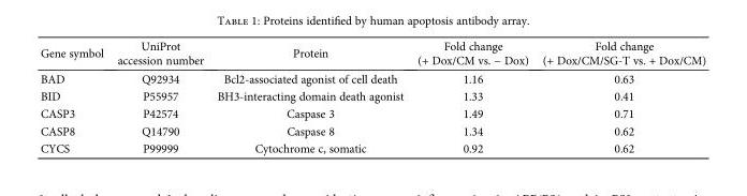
<table><thead><tr><td>Gene symbol</td><td>UniProt accession number</td><td>Protein</td><td>Fold change (+ Dox/CM vs. − Dox)</td><td>Fold change (+ Dox/CM/SG-T vs. + Dox/CM)</td></tr></thead><tbody><tr><td>BAD</td><td>Q92934</td><td>Bcl2-associated agonist of cell death</td><td>1.16</td><td>0.63</td></tr><tr><td>BID</td><td>P55957</td><td>BH3-interacting domain death agonist</td><td>1.33</td><td>0.41</td></tr><tr><td>CASP3</td><td>P42574</td><td>Caspase 3</td><td>1.49</td><td>0.71</td></tr><tr><td>CASP8</td><td>Q14790</td><td>Caspase 8</td><td>1.34</td><td>0.62</td></tr><tr><td>CYCS</td><td>P99999</td><td>Cytochrome c, somatic</td><td>0.92</td><td>0.62</td></tr></tbody></table>